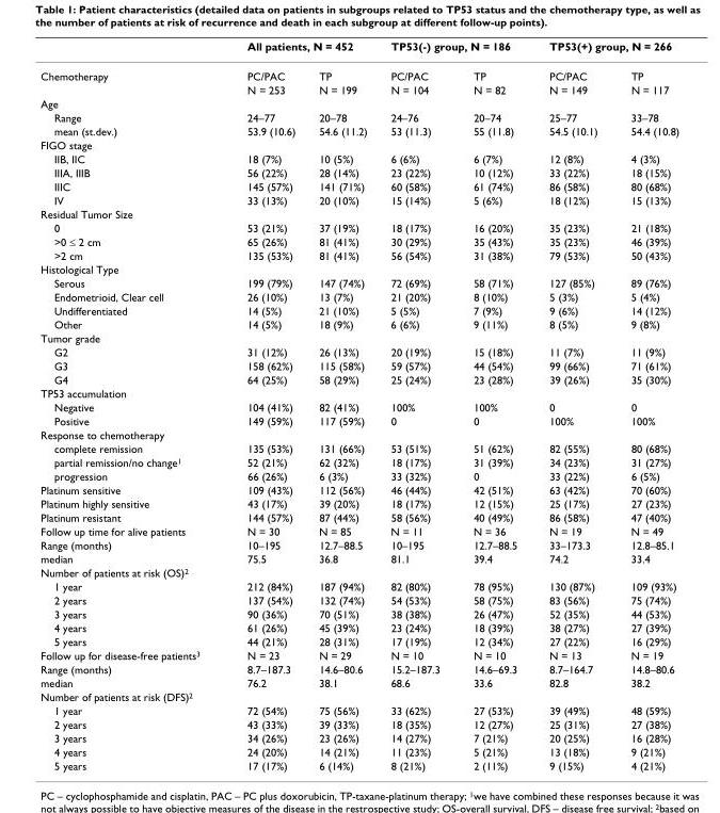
<table><thead><tr><td rowspan="2">Chemotherapy</td><td colspan="2">All patients, N = 452</td><td colspan="2">TP53(-) group, N = 186</td><td colspan="2">TP53(+) group, N = 266</td></tr><tr><td>PC/PAC</td><td>TP</td><td>PC/PAC</td><td>TP</td><td>PC/PAC</td><td>TP</td></tr></thead><tbody><tr><td></td><td>N = 253</td><td>N = 199</td><td>N = 104</td><td>N = 82</td><td>N = 149</td><td>N = 117</td></tr><tr><td colspan="7">Age</td></tr><tr><td>Range</td><td>24–77</td><td>20–78</td><td>24–76</td><td>20–74</td><td>25–77</td><td>33–78</td></tr><tr><td>mean (st.dev.)</td><td>53.9 (10.6)</td><td>54.6 (11.2)</td><td>53 (11.3)</td><td>55 (11.8)</td><td>54.5 (10.1)</td><td>54.4 (10.8)</td></tr><tr><td colspan="7">FIGO stage</td></tr><tr><td>IIB, IIC</td><td>18 (7%)</td><td>10 (5%)</td><td>6 (6%)</td><td>6 (7%)</td><td>12 (8%)</td><td>4 (3%)</td></tr><tr><td>IIIA, IIIB</td><td>56 (22%)</td><td>28 (14%)</td><td>23 (22%)</td><td>10 (12%)</td><td>33 (22%)</td><td>18 (15%)</td></tr><tr><td>IIIC</td><td>145 (57%)</td><td>141 (71%)</td><td>60 (58%)</td><td>61 (74%)</td><td>86 (58%)</td><td>80 (68%)</td></tr><tr><td>IV</td><td>33 (13%)</td><td>20 (10%)</td><td>15 (14%)</td><td>5 (6%)</td><td>18 (12%)</td><td>15 (13%)</td></tr><tr><td colspan="7">Residual Tumor Size</td></tr><tr><td>0</td><td>53 (21%)</td><td>37 (19%)</td><td>18 (17%)</td><td>16 (20%)</td><td>35 (23%)</td><td>21 (18%)</td></tr><tr><td>&gt;0 ≤ 2 cm</td><td>65 (26%)</td><td>81 (41%)</td><td>30 (29%)</td><td>35 (43%)</td><td>35 (23%)</td><td>46 (39%)</td></tr><tr><td>&gt;2 cm</td><td>135 (53%)</td><td>81 (41%)</td><td>56 (54%)</td><td>31 (38%)</td><td>79 (53%)</td><td>50 (43%)</td></tr><tr><td colspan="7">Histological Type</td></tr><tr><td>Serous</td><td>199 (79%)</td><td>147 (74%)</td><td>72 (69%)</td><td>58 (71%)</td><td>127 (85%)</td><td>89 (76%)</td></tr><tr><td>Endometrioid, Clear cell</td><td>26 (10%)</td><td>13 (7%)</td><td>21 (20%)</td><td>8 (10%)</td><td>5 (3%)</td><td>5 (4%)</td></tr><tr><td>Undifferentiated</td><td>14 (5%)</td><td>21 (10%)</td><td>5 (5%)</td><td>7 (9%)</td><td>9 (6%)</td><td>14 (12%)</td></tr><tr><td>Other</td><td>14 (5%)</td><td>18 (9%)</td><td>6 (6%)</td><td>9 (11%)</td><td>8 (5%)</td><td>9 (8%)</td></tr><tr><td colspan="7">Tumor grade</td></tr><tr><td>G2</td><td>31 (12%)</td><td>26 (13%)</td><td>20 (19%)</td><td>15 (18%)</td><td>11 (7%)</td><td>11 (9%)</td></tr><tr><td>G3</td><td>158 (62%)</td><td>115 (58%)</td><td>59 (57%)</td><td>44 (54%)</td><td>99 (66%)</td><td>71 (61%)</td></tr><tr><td>G4</td><td>64 (25%)</td><td>58 (29%)</td><td>25 (24%)</td><td>23 (28%)</td><td>39 (26%)</td><td>35 (30%)</td></tr><tr><td colspan="7">TP53 accumulation</td></tr><tr><td>Negative</td><td>104 (41%)</td><td>82 (41%)</td><td>100%</td><td>100%</td><td>0</td><td>0</td></tr><tr><td>Positive</td><td>149 (59%)</td><td>117 (59%)</td><td>0</td><td>0</td><td>100%</td><td>100%</td></tr><tr><td colspan="7">Response to chemotherapy</td></tr><tr><td>complete remission</td><td>135 (53%)</td><td>131 (66%)</td><td>53 (51%)</td><td>51 (62%)</td><td>82 (55%)</td><td>80 (68%)</td></tr><tr><td>partial remission/no change<sup>1</sup></td><td>52 (21%)</td><td>62 (32%)</td><td>18 (17%)</td><td>31 (39%)</td><td>34 (23%)</td><td>31 (27%)</td></tr><tr><td>progression</td><td>66 (26%)</td><td>6 (3%)</td><td>33 (32%)</td><td>0</td><td>33 (22%)</td><td>6 (5%)</td></tr><tr><td>Platinum sensitive</td><td>109 (43%)</td><td>112 (56%)</td><td>46 (44%)</td><td>42 (51%)</td><td>63 (42%)</td><td>70 (60%)</td></tr><tr><td>Platinum highly sensitive</td><td>43 (17%)</td><td>39 (20%)</td><td>18 (17%)</td><td>12 (15%)</td><td>25 (17%)</td><td>27 (23%)</td></tr><tr><td>Platinum resistant</td><td>144 (57%)</td><td>87 (44%)</td><td>58 (56%)</td><td>40 (49%)</td><td>86 (58%)</td><td>47 (40%)</td></tr><tr><td>Follow up time for alive patients</td><td>N = 30</td><td>N = 85</td><td>N = 11</td><td>N = 36</td><td>N = 19</td><td>N = 49</td></tr><tr><td>Range (months)</td><td>10–195</td><td>12.7–88.5</td><td>10–195</td><td>12.7–88.5</td><td>33–173.3</td><td>12.8–85.1</td></tr><tr><td>median</td><td>75.5</td><td>36.8</td><td>81.1</td><td>39.4</td><td>74.2</td><td>33.4</td></tr><tr><td colspan="7">Number of patients at risk (OS)<sup>2</sup></td></tr><tr><td>1 year</td><td>212 (84%)</td><td>187 (94%)</td><td>82 (80%)</td><td>78 (95%)</td><td>130 (87%)</td><td>109 (93%)</td></tr><tr><td>2 years</td><td>137 (54%)</td><td>132 (74%)</td><td>54 (53%)</td><td>58 (75%)</td><td>83 (56%)</td><td>75 (74%)</td></tr><tr><td>3 years</td><td>90 (36%)</td><td>70 (51%)</td><td>38 (38%)</td><td>26 (47%)</td><td>52 (35%)</td><td>44 (53%)</td></tr><tr><td>4 years</td><td>61 (26%)</td><td>45 (39%)</td><td>23 (24%)</td><td>18 (39%)</td><td>38 (27%)</td><td>27 (39%)</td></tr><tr><td>5 years</td><td>44 (21%)</td><td>28 (31%)</td><td>17 (19%)</td><td>12 (34%)</td><td>27 (22%)</td><td>16 (29%)</td></tr><tr><td>Follow up for disease-free patients<sup>3</sup></td><td>N = 23</td><td>N = 29</td><td>N = 10</td><td>N = 10</td><td>N = 13</td><td>N = 19</td></tr><tr><td>Range (months)</td><td>8.7–187.3</td><td>14.6–80.6</td><td>15.2–187.3</td><td>14.6–69.3</td><td>8.7–164.7</td><td>14.8–80.6</td></tr><tr><td>median</td><td>76.2</td><td>38.1</td><td>68.6</td><td>33.6</td><td>82.8</td><td>38.2</td></tr><tr><td colspan="7">Number of patients at risk (DFS)<sup>2</sup></td></tr><tr><td>1 year</td><td>72 (54%)</td><td>75 (56%)</td><td>33 (62%)</td><td>27 (53%)</td><td>39 (49%)</td><td>48 (59%)</td></tr><tr><td>2 years</td><td>43 (33%)</td><td>39 (33%)</td><td>18 (35%)</td><td>12 (27%)</td><td>25 (31%)</td><td>27 (38%)</td></tr><tr><td>3 years</td><td>34 (26%)</td><td>23 (26%)</td><td>14 (27%)</td><td>7 (21%)</td><td>20 (25%)</td><td>16 (28%)</td></tr><tr><td>4 years</td><td>24 (20%)</td><td>14 (21%)</td><td>11 (23%)</td><td>5 (21%)</td><td>13 (18%)</td><td>9 (21%)</td></tr><tr><td>5 years</td><td>17 (17%)</td><td>6 (14%)</td><td>8 (21%)</td><td>2 (11%)</td><td>9 (15%)</td><td>4 (21%)</td></tr></tbody></table>